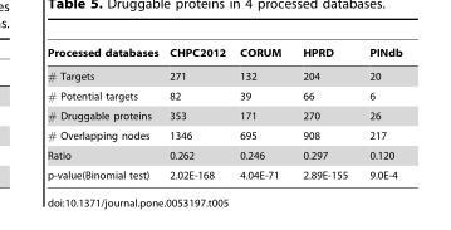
<table><thead><tr><td>Processed databases</td><td>CHPC2012</td><td>CORUM</td><td>HPRD</td><td>PINdb</td></tr></thead><tbody><tr><td># Targets</td><td>271</td><td>132</td><td>204</td><td>20</td></tr><tr><td># Potential targets</td><td>82</td><td>39</td><td>66</td><td>6</td></tr><tr><td># Druggable proteins</td><td>353</td><td>171</td><td>270</td><td>26</td></tr><tr><td># Overlapping nodes</td><td>1346</td><td>695</td><td>908</td><td>217</td></tr><tr><td>Ratio</td><td>0.262</td><td>0.246</td><td>0.297</td><td>0.120</td></tr><tr><td>p-value(Binomial test)</td><td>2.02E-168</td><td>4.04E-71</td><td>2.89E-155</td><td>9.0E-4</td></tr></tbody></table>